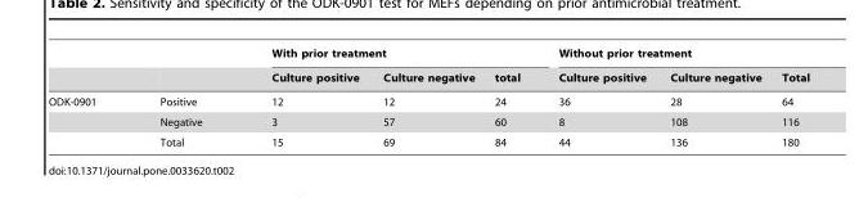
<table><thead><tr><td rowspan="2"></td><td rowspan="2"></td><td colspan="3">With prior treatment</td><td colspan="3">Without prior treatment</td></tr><tr><td>Culture positive</td><td>Culture negative</td><td>total</td><td>Culture positive</td><td>Culture negative</td><td>Total</td></tr></thead><tbody><tr><td rowspan="3">ODK-0901</td><td>Positive</td><td>12</td><td>12</td><td>24</td><td>36</td><td>28</td><td>64</td></tr><tr><td>Negative</td><td>3</td><td>57</td><td>60</td><td>8</td><td>108</td><td>116</td></tr><tr><td>Total</td><td>15</td><td>69</td><td>84</td><td>44</td><td>136</td><td>180</td></tr></tbody></table>